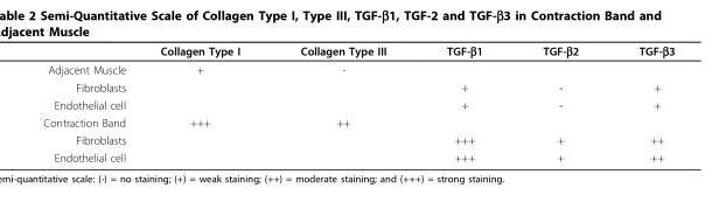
<table><thead><tr><td></td><td>Collagen Type I</td><td>Collagen Type III</td><td>TGF-β1</td><td>TGF-β2</td><td>TGF-β3</td></tr></thead><tbody><tr><td>Adjacent Muscle</td><td>+</td><td>-</td><td></td><td></td><td></td></tr><tr><td>Fibroblasts</td><td></td><td></td><td>+</td><td>-</td><td>+</td></tr><tr><td>Endothelial cell</td><td></td><td></td><td>+</td><td>-</td><td>+</td></tr><tr><td>Contraction Band</td><td>+++</td><td>++</td><td></td><td></td><td></td></tr><tr><td>Fibroblasts</td><td></td><td></td><td>+++</td><td>+</td><td>++</td></tr><tr><td>Endothelial cell</td><td></td><td></td><td>+++</td><td>+</td><td>++</td></tr></tbody></table>